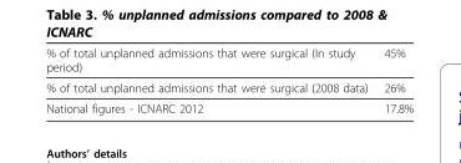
<table><tbody><tr><td>% of total unplanned admissions that were surgical (In study period)</td><td>45%</td></tr><tr><td>% of total unplanned admissions that were surgical (2008 data)</td><td>26%</td></tr><tr><td>National figures - ICNARC 2012</td><td>17.8%</td></tr></tbody></table>